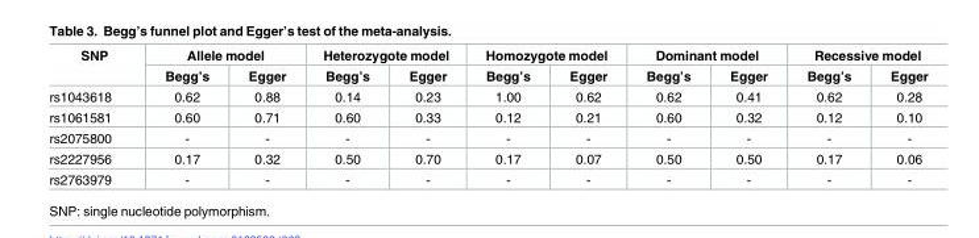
<table><thead><tr><td rowspan="2">SNP</td><td colspan="2">Allele model</td><td colspan="2">Heterozygote model</td><td colspan="2">Homozygote model</td><td colspan="2">Dominant model</td><td colspan="2">Recessive model</td></tr><tr><td>Begg’s</td><td>Egger</td><td>Begg’s</td><td>Egger</td><td>Begg’s</td><td>Egger</td><td>Begg’s</td><td>Egger</td><td>Begg’s</td><td>Egger</td></tr></thead><tbody><tr><td>rs1043618</td><td>0.62</td><td>0.88</td><td>0.14</td><td>0.23</td><td>1.00</td><td>0.62</td><td>0.62</td><td>0.41</td><td>0.62</td><td>0.28</td></tr><tr><td>rs1061581</td><td>0.60</td><td>0.71</td><td>0.60</td><td>0.33</td><td>0.12</td><td>0.21</td><td>0.60</td><td>0.32</td><td>0.12</td><td>0.10</td></tr><tr><td>rs2075800</td><td>-</td><td>-</td><td>-</td><td>-</td><td>-</td><td>-</td><td>-</td><td>-</td><td>-</td><td>-</td></tr><tr><td>rs2227956</td><td>0.17</td><td>0.32</td><td>0.50</td><td>0.70</td><td>0.17</td><td>0.07</td><td>0.50</td><td>0.50</td><td>0.17</td><td>0.06</td></tr><tr><td>rs2763979</td><td>-</td><td>-</td><td>-</td><td>-</td><td>-</td><td>-</td><td>-</td><td>-</td><td>-</td><td>-</td></tr></tbody></table>